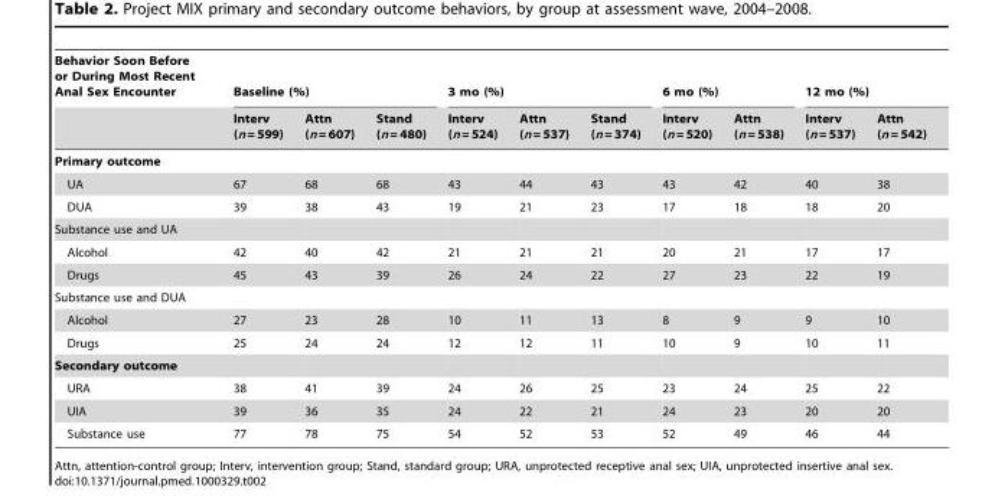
<table><thead><tr><td rowspan="2">Behavior Soon Before or During Most Recent Anal Sex Encounter</td><td colspan="3">Baseline (%)</td><td colspan="3">3 mo (%)</td><td colspan="2">6 mo (%)</td><td colspan="2">12 mo (%)</td></tr><tr><td>Interv (n = 599)</td><td>Attn (n = 607)</td><td>Stand (n = 480)</td><td>Interv (n = 524)</td><td>Attn (n = 537)</td><td>Stand (n = 374)</td><td>Interv (n = 520)</td><td>Attn (n = 538)</td><td>Interv (n = 537)</td><td>Attn (n = 542)</td></tr></thead><tbody><tr><td colspan="11">Primary outcome</td></tr><tr><td>UA</td><td>67</td><td>68</td><td>68</td><td>43</td><td>44</td><td>43</td><td>43</td><td>42</td><td>40</td><td>38</td></tr><tr><td>DUA</td><td>39</td><td>38</td><td>43</td><td>19</td><td>21</td><td>23</td><td>17</td><td>18</td><td>18</td><td>20</td></tr><tr><td colspan="11">Substance use and UA</td></tr><tr><td>Alcohol</td><td>42</td><td>40</td><td>42</td><td>21</td><td>21</td><td>21</td><td>20</td><td>21</td><td>17</td><td>17</td></tr><tr><td>Drugs</td><td>45</td><td>43</td><td>39</td><td>26</td><td>24</td><td>22</td><td>27</td><td>23</td><td>22</td><td>19</td></tr><tr><td colspan="11">Substance use and DUA</td></tr><tr><td>Alcohol</td><td>27</td><td>23</td><td>28</td><td>10</td><td>11</td><td>13</td><td>8</td><td>9</td><td>9</td><td>10</td></tr><tr><td>Drugs</td><td>25</td><td>24</td><td>24</td><td>12</td><td>12</td><td>11</td><td>10</td><td>9</td><td>10</td><td>11</td></tr><tr><td colspan="11">Secondary outcome</td></tr><tr><td>URA</td><td>38</td><td>41</td><td>39</td><td>24</td><td>26</td><td>25</td><td>23</td><td>24</td><td>25</td><td>22</td></tr><tr><td>UIA</td><td>39</td><td>36</td><td>35</td><td>24</td><td>22</td><td>21</td><td>24</td><td>23</td><td>20</td><td>20</td></tr><tr><td>Substance use</td><td>77</td><td>78</td><td>75</td><td>54</td><td>52</td><td>53</td><td>52</td><td>49</td><td>46</td><td>44</td></tr></tbody></table>